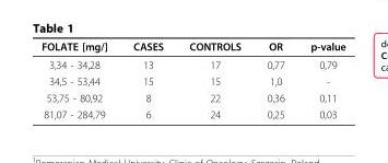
<table><thead><tr><td>FOLATE [mg/]</td><td>CASES</td><td>CONTROLS</td><td>OR</td><td>p-value</td></tr></thead><tbody><tr><td>3,34 - 34,28</td><td>13</td><td>17</td><td>0,77</td><td>0,79</td></tr><tr><td>34,5 - 53,44</td><td>15</td><td>15</td><td>1,0</td><td>-</td></tr><tr><td>53,75 - 80,92</td><td>8</td><td>22</td><td>0,36</td><td>0,11</td></tr><tr><td>81,07 - 284,79</td><td>6</td><td>24</td><td>0,25</td><td>0,03</td></tr></tbody></table>